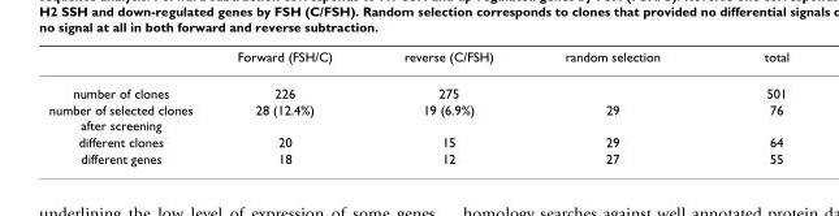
<table><thead><tr><td></td><td>Forward (FSH/C)</td><td>reverse (C/FSH)</td><td>random selection</td><td>total</td></tr></thead><tbody><tr><td>number of clones</td><td>226</td><td>275</td><td></td><td>501</td></tr><tr><td>number of selected clones after screening</td><td>28 (12.4%)</td><td>19 (6.9%)</td><td>29</td><td>76</td></tr><tr><td>different clones</td><td>20</td><td>15</td><td>29</td><td>64</td></tr><tr><td>different genes</td><td>18</td><td>12</td><td>27</td><td>55</td></tr></tbody></table>